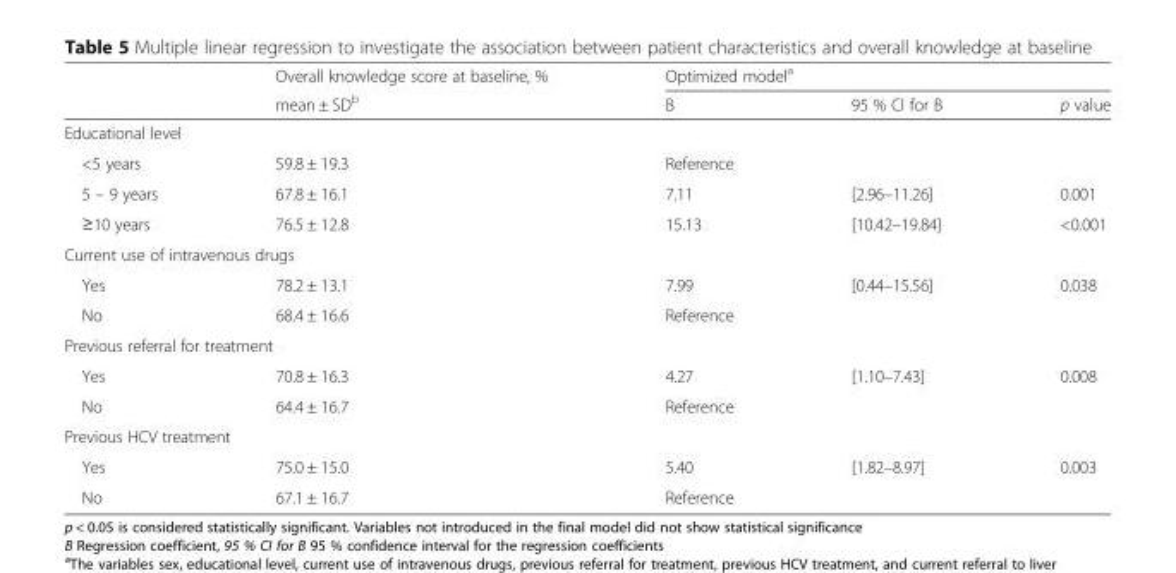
<table><thead><tr><td rowspan="2"></td><td rowspan="2">Overall knowledge score at baseline, % mean ± SD<sup>b</sup></td><td colspan="3">Optimized model<sup>a</sup></td></tr><tr><td>B</td><td>95 % CI for B</td><td>p value</td></tr></thead><tbody><tr><td colspan="5">Educational level</td></tr><tr><td>&lt;5 years</td><td>59.8 ± 19.3</td><td>Reference</td><td></td><td></td></tr><tr><td>5 – 9 years</td><td>67.8 ± 16.1</td><td>7.11</td><td>[2.96–11.26]</td><td>0.001</td></tr><tr><td>≥10 years</td><td>76.5 ± 12.8</td><td>15.13</td><td>[10.42–19.84]</td><td>&lt;0.001</td></tr><tr><td colspan="5">Current use of intravenous drugs</td></tr><tr><td>Yes</td><td>78.2 ± 13.1</td><td>7.99</td><td>[0.44–15.56]</td><td>0.038</td></tr><tr><td>No</td><td>68.4 ± 16.6</td><td>Reference</td><td></td><td></td></tr><tr><td colspan="5">Previous referral for treatment</td></tr><tr><td>Yes</td><td>70.8 ± 16.3</td><td>4.27</td><td>[1.10–7.43]</td><td>0.008</td></tr><tr><td>No</td><td>64.4 ± 16.7</td><td>Reference</td><td></td><td></td></tr><tr><td colspan="5">Previous HCV treatment</td></tr><tr><td>Yes</td><td>75.0 ± 15.0</td><td>5.40</td><td>[1.82–8.97]</td><td>0.003</td></tr><tr><td>No</td><td>67.1 ± 16.7</td><td>Reference</td><td></td><td></td></tr></tbody></table>